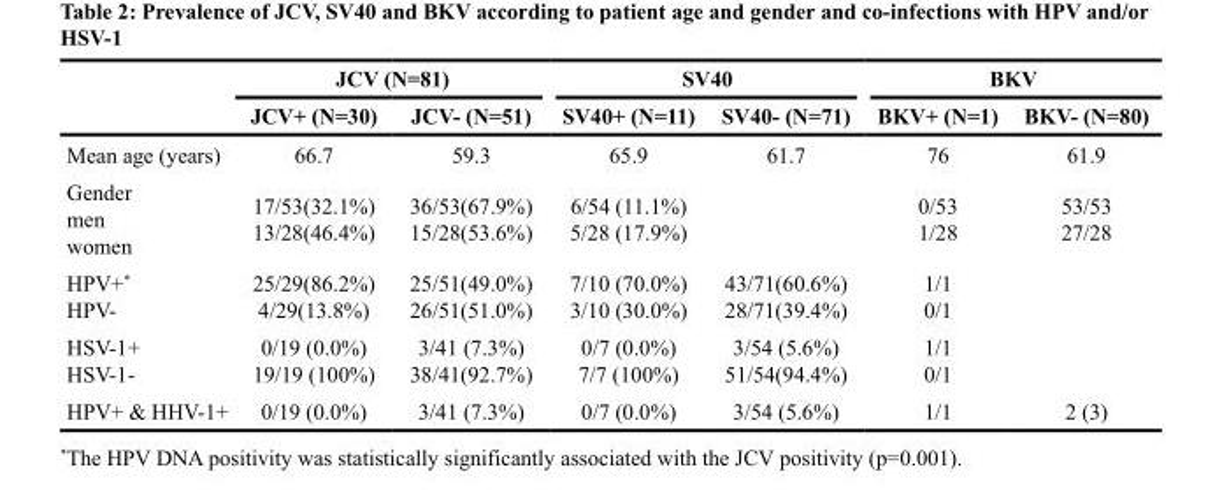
<table><thead><tr><td rowspan="2"></td><td colspan="2">JCV (N=81)</td><td colspan="2">SV40</td><td colspan="2">BKV</td></tr><tr><td>JCV+ (N=30)</td><td>JCV- (N=51)</td><td>SV40+ (N=11)</td><td>SV40- (N=71)</td><td>BKV+ (N=1)</td><td>BKV- (N=80)</td></tr></thead><tbody><tr><td>Mean age (years)</td><td>66.7</td><td>59.3</td><td>65.9</td><td>61.7</td><td>76</td><td>61.9</td></tr><tr><td>Gender men women</td><td>17/53(32.1%) 13/28(46.4%)</td><td>36/53(67.9%) 15/28(53.6%)</td><td>6/54 (11.1%) 5/28 (17.9%)</td><td></td><td>0/53 1/28</td><td>53/53 27/28</td></tr><tr><td>HPV+* HPV-</td><td>25/29(86.2%) 4/29(13.8%)</td><td>25/51(49.0%) 26/51(51.0%)</td><td>7/10 (70.0%) 3/10 (30.0%)</td><td>43/71(60.6%) 28/71(39.4%)</td><td>1/1 0/1</td><td></td></tr><tr><td>HSV-1+ HSV-1-</td><td>0/19 (0.0%) 19/19 (100%)</td><td>3/41 (7.3%) 38/41(92.7%)</td><td>0/7 (0.0%) 7/7 (100%)</td><td>3/54 (5.6%) 51/54(94.4%)</td><td>1/1 0/1</td><td></td></tr><tr><td>HPV+ &amp; HHV-1+</td><td>0/19 (0.0%)</td><td>3/41 (7.3%)</td><td>0/7 (0.0%)</td><td>3/54 (5.6%)</td><td>1/1</td><td>2 (3)</td></tr></tbody></table>